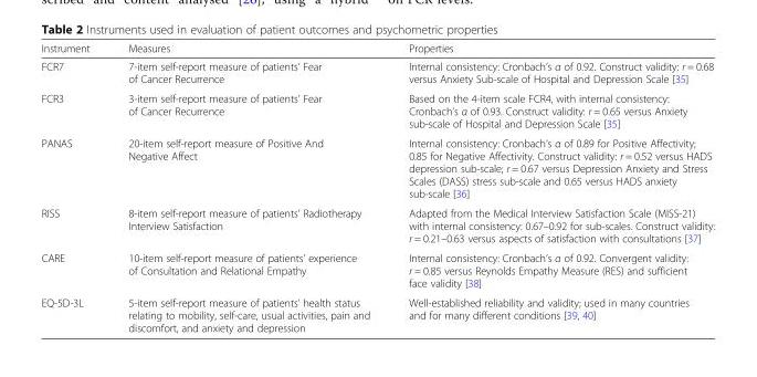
<table><thead><tr><td>Instrument</td><td>Measures</td><td>Properties</td></tr></thead><tbody><tr><td>FCR7</td><td>7-item self-report measure of patients’ Fear of Cancer Recurrence</td><td>Internal consistency: Cronbach’s α of 0.92. Construct validity: r = 0.68 versus Anxiety Sub-scale of Hospital and Depression Scale [35]</td></tr><tr><td>FCR3</td><td>3-item self-report measure of patients’ Fear of Cancer Recurrence</td><td>Based on the 4-item scale FCR4, with internal consistency: Cronbach’s α of 0.93. Construct validity: r = 0.65 versus Anxiety sub-scale of Hospital and Depression Scale [35]</td></tr><tr><td>PANAS</td><td>20-item self-report measure of Positive And Negative Affect</td><td>Internal consistency: Cronbach’s α of 0.89 for Positive Affectivity; 0.85 for Negative Affectivity. Construct validity: r = 0.52 versus HADS depression sub-scale; r = 0.67 versus Depression Anxiety and Stress Scales (DASS) stress sub-scale and 0.65 versus HADS anxiety sub-scale [36]</td></tr><tr><td>RISS</td><td>8-item self-report measure of patients’ Radiotherapy Interview Satisfaction</td><td>Adapted from the Medical Interview Satisfaction Scale (MISS-21) with internal consistency: 0.67–0.92 for sub-scales. Construct validity: r = 0.21–0.63 versus aspects of satisfaction with consultations [37]</td></tr><tr><td>CARE</td><td>10-item self-report measure of patients’ experience of Consultation and Relational Empathy</td><td>Internal consistency: Cronbach’s α of 0.92. Convergent validity: r = 0.85 versus Reynolds Empathy Measure (RES) and sufficient face validity [38]</td></tr><tr><td>EQ-5D-3L</td><td>5-item self-report measure of patients’ health status relating to mobility, self-care, usual activities, pain and discomfort, and anxiety and depression</td><td>Well-established reliability and validity; used in many countries and for many different conditions [39, 40]</td></tr></tbody></table>